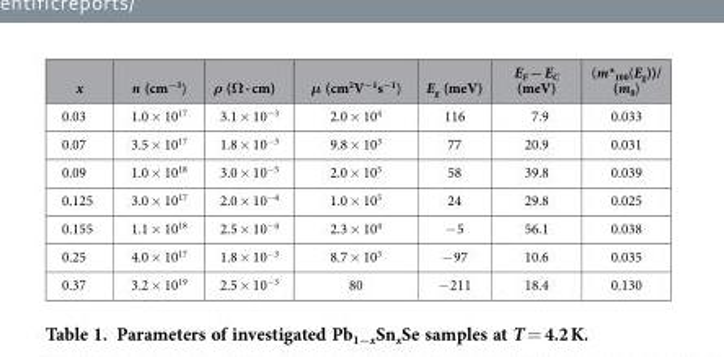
<table><thead><tr><td>x</td><td>n (cm<sup>−3</sup>)</td><td>ρ (Ω ⋅ cm)</td><td>μ (cm<sup>2</sup>V<sup>−1</sup>s<sup>−1</sup>)</td><td>E<sub>g</sub> (meV)</td><td>E<sub>F</sub> − E<sub>C</sub> (meV)</td><td>(m*<sub>100</sub>(E<sub>g</sub>))/ (m<sub>0</sub>)</td></tr></thead><tbody><tr><td>0.03</td><td>1.0 × 10<sup>17</sup></td><td>3.1 × 10<sup>−3</sup></td><td>2.0 × 10<sup>4</sup></td><td>116</td><td>7.9</td><td>0.033</td></tr><tr><td>0.07</td><td>3.5 × 10<sup>17</sup></td><td>1.8 × 10<sup>−3</sup></td><td>9.8 × 10<sup>3</sup></td><td>77</td><td>20.9</td><td>0.031</td></tr><tr><td>0.09</td><td>1.0 × 10<sup>18</sup></td><td>3.0 × 10<sup>−5</sup></td><td>2.0 × 10<sup>5</sup></td><td>58</td><td>39.8</td><td>0.039</td></tr><tr><td>0.125</td><td>3.0 × 10<sup>17</sup></td><td>2.0 × 10<sup>−4</sup></td><td>1.0 × 10<sup>5</sup></td><td>24</td><td>29.8</td><td>0.025</td></tr><tr><td>0.155</td><td>1.1 × 10<sup>18</sup></td><td>2.5 × 10<sup>−4</sup></td><td>2.3 × 10<sup>4</sup></td><td>− 5</td><td>56.1</td><td>0.038</td></tr><tr><td>0.25</td><td>4.0 × 10<sup>17</sup></td><td>1.8 × 10<sup>−3</sup></td><td>8.7 × 10<sup>3</sup></td><td>− 97</td><td>10.6</td><td>0.035</td></tr><tr><td>0.37</td><td>3.2 × 10<sup>19</sup></td><td>2.5 × 10<sup>−3</sup></td><td>80</td><td>− 211</td><td>18.4</td><td>0.130</td></tr></tbody></table>